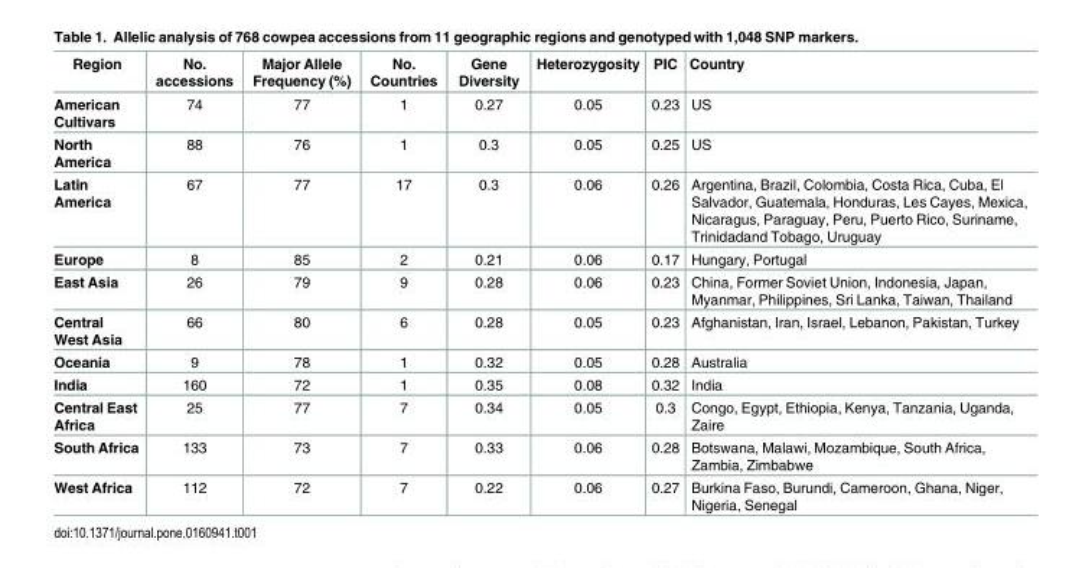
<table><thead><tr><td>Region</td><td>No. accessions</td><td>Major Allele Frequency (%)</td><td>No. Countries</td><td>Gene Diversity</td><td>Heterozygosity</td><td>PIC</td><td>Country</td></tr></thead><tbody><tr><td>American Cultivars</td><td>74</td><td>77</td><td>1</td><td>0.27</td><td>0.05</td><td>0.23</td><td>US</td></tr><tr><td>North America</td><td>88</td><td>76</td><td>1</td><td>0.3</td><td>0.05</td><td>0.25</td><td>US</td></tr><tr><td>Latin America</td><td>67</td><td>77</td><td>17</td><td>0.3</td><td>0.06</td><td>0.26</td><td>Argentina, Brazil, Colombia, Costa Rica, Cuba, El Salvador, Guatemala, Honduras, Les Cayes, Mexica, Nicaragus, Paraguay, Peru, Puerto Rico, Suriname, Trinidadand Tobago, Uruguay</td></tr><tr><td>Europe</td><td>8</td><td>85</td><td>2</td><td>0.21</td><td>0.06</td><td>0.17</td><td>Hungary, Portugal</td></tr><tr><td>East Asia</td><td>26</td><td>79</td><td>9</td><td>0.28</td><td>0.06</td><td>0.23</td><td>China, Former Soviet Union, Indonesia, Japan, Myanmar, Philippines, Sri Lanka, Taiwan, Thailand</td></tr><tr><td>Central West Asia</td><td>66</td><td>80</td><td>6</td><td>0.28</td><td>0.05</td><td>0.23</td><td>Afghanistan, Iran, Israel, Lebanon, Pakistan, Turkey</td></tr><tr><td>Oceania</td><td>9</td><td>78</td><td>1</td><td>0.32</td><td>0.05</td><td>0.28</td><td>Australia</td></tr><tr><td>India</td><td>160</td><td>72</td><td>1</td><td>0.35</td><td>0.08</td><td>0.32</td><td>India</td></tr><tr><td>Central East Africa</td><td>25</td><td>77</td><td>7</td><td>0.34</td><td>0.05</td><td>0.3</td><td>Congo, Egypt, Ethiopia, Kenya, Tanzania, Uganda, Zaire</td></tr><tr><td>South Africa</td><td>133</td><td>73</td><td>7</td><td>0.33</td><td>0.06</td><td>0.28</td><td>Botswana, Malawi, Mozambique, South Africa, Zambia, Zimbabwe</td></tr><tr><td>West Africa</td><td>112</td><td>72</td><td>7</td><td>0.22</td><td>0.06</td><td>0.27</td><td>Burkina Faso, Burundi, Cameroon, Ghana, Niger, Nigeria, Senegal</td></tr></tbody></table>